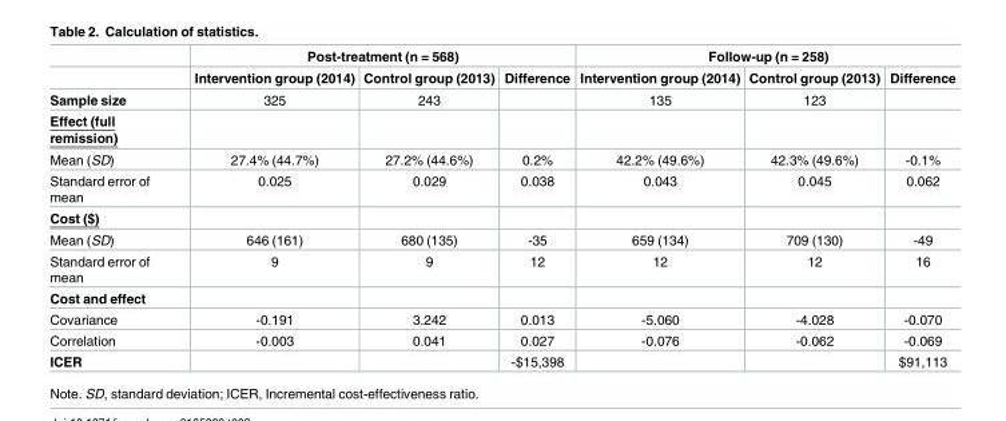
<table><thead><tr><td rowspan="2"></td><td colspan="3">Post-treatment (n = 568)</td><td colspan="3">Follow-up (n = 258)</td></tr><tr><td>Intervention group (2014)</td><td>Control group (2013)</td><td>Difference</td><td>Intervention group (2014)</td><td>Control group (2013)</td><td>Difference</td></tr></thead><tbody><tr><td>Sample size</td><td>325</td><td>243</td><td></td><td>135</td><td>123</td><td></td></tr><tr><td colspan="7">Effect (full remission)</td></tr><tr><td>Mean (SD)</td><td>27.4% (44.7%)</td><td>27.2% (44.6%)</td><td>0.2%</td><td>42.2% (49.6%)</td><td>42.3% (49.6%)</td><td>-0.1%</td></tr><tr><td>Standard error of mean</td><td>0.025</td><td>0.029</td><td>0.038</td><td>0.043</td><td>0.045</td><td>0.062</td></tr><tr><td colspan="7">Cost ($)</td></tr><tr><td>Mean (SD)</td><td>646 (161)</td><td>680 (135)</td><td>-35</td><td>659 (134)</td><td>709 (130)</td><td>-49</td></tr><tr><td>Standard error of mean</td><td>9</td><td>9</td><td>12</td><td>12</td><td>12</td><td>16</td></tr><tr><td colspan="7">Cost and effect</td></tr><tr><td>Covariance</td><td>-0.191</td><td>3.242</td><td>0.013</td><td>-5.060</td><td>-4.028</td><td>-0.070</td></tr><tr><td>Correlation</td><td>-0.003</td><td>0.041</td><td>0.027</td><td>-0.076</td><td>-0.062</td><td>-0.069</td></tr><tr><td>ICER</td><td></td><td></td><td>-$15,398</td><td></td><td></td><td>$91,113</td></tr></tbody></table>